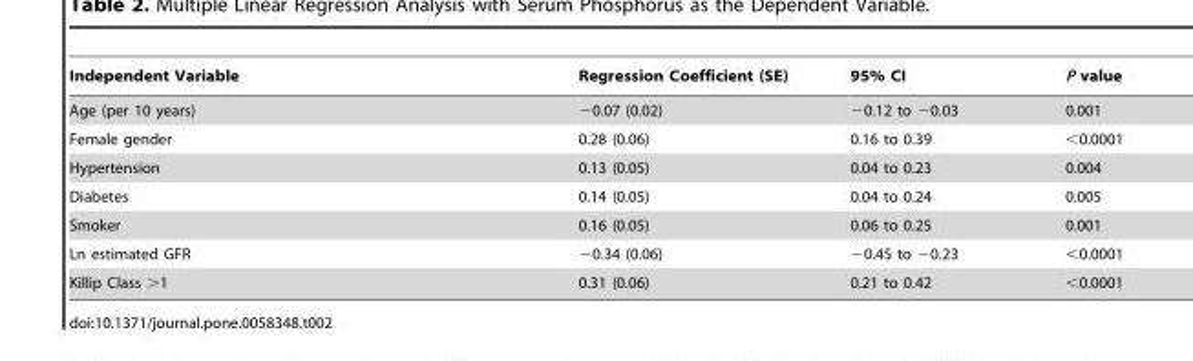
<table><thead><tr><td>Independent Variable</td><td>Regression Coefficient (SE)</td><td>95% CI</td><td>P value</td></tr></thead><tbody><tr><td>Age (per 10 years)</td><td>−0.07 (0.02)</td><td>−0.12 to −0.03</td><td>0.001</td></tr><tr><td>Female gender</td><td>0.28 (0.06)</td><td>0.16 to 0.39</td><td>&lt;0.0001</td></tr><tr><td>Hypertension</td><td>0.13 (0.05)</td><td>0.04 to 0.23</td><td>0.004</td></tr><tr><td>Diabetes</td><td>0.14 (0.05)</td><td>0.04 to 0.24</td><td>0.005</td></tr><tr><td>Smoker</td><td>0.16 (0.05)</td><td>0.06 to 0.25</td><td>0.001</td></tr><tr><td>Ln estimated GFR</td><td>−0.34 (0.06)</td><td>−0.45 to −0.23</td><td>&lt;0.0001</td></tr><tr><td>Killip Class &gt;1</td><td>0.31 (0.06)</td><td>0.21 to 0.42</td><td>&lt;0.0001</td></tr></tbody></table>